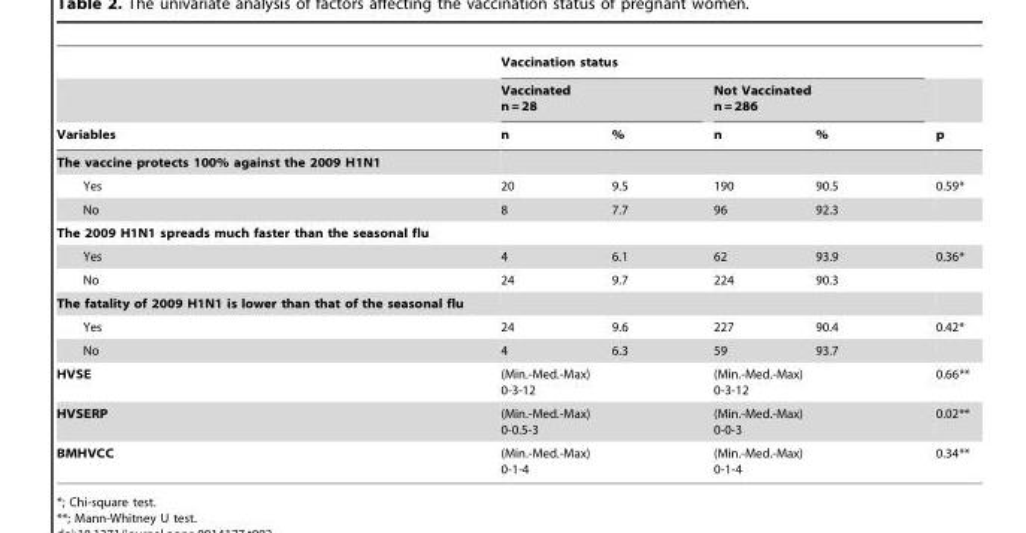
<table><thead><tr><td rowspan="3">Variables</td><td colspan="4">Vaccination status</td><td rowspan="3">p</td></tr><tr><td colspan="2">Vaccinated n = 28</td><td colspan="2">Not Vaccinated n = 286</td></tr><tr><td>n</td><td>%</td><td>n</td><td>%</td></tr></thead><tbody><tr><td colspan="6">The vaccine protects 100% against the 2009 H1N1</td></tr><tr><td>Yes</td><td>20</td><td>9.5</td><td>190</td><td>90.5</td><td>0.59*</td></tr><tr><td>No</td><td>8</td><td>7.7</td><td>96</td><td>92.3</td><td></td></tr><tr><td colspan="6">The 2009 H1N1 spreads much faster than the seasonal flu</td></tr><tr><td>Yes</td><td>4</td><td>6.1</td><td>62</td><td>93.9</td><td>0.36*</td></tr><tr><td>No</td><td>24</td><td>9.7</td><td>224</td><td>90.3</td><td></td></tr><tr><td colspan="6">The fatality of 2009 H1N1 is lower than that of the seasonal flu</td></tr><tr><td>Yes</td><td>24</td><td>9.6</td><td>227</td><td>90.4</td><td>0.42*</td></tr><tr><td>No</td><td>4</td><td>6.3</td><td>59</td><td>93.7</td><td></td></tr><tr><td>HVSE</td><td colspan="2">(Min.-Med.-Max) 0-3-12</td><td colspan="2">(Min.-Med.-Max) 0-3-12</td><td>0.66**</td></tr><tr><td>HVSERP</td><td colspan="2">(Min.-Med.-Max) 0-0.5-3</td><td colspan="2">(Min.-Med.-Max) 0-0-3</td><td>0.02**</td></tr><tr><td>BMHVCC</td><td colspan="2">(Min.-Med.-Max) 0-1-4</td><td colspan="2">(Min.-Med.-Max) 0-1-4</td><td>0.34**</td></tr></tbody></table>